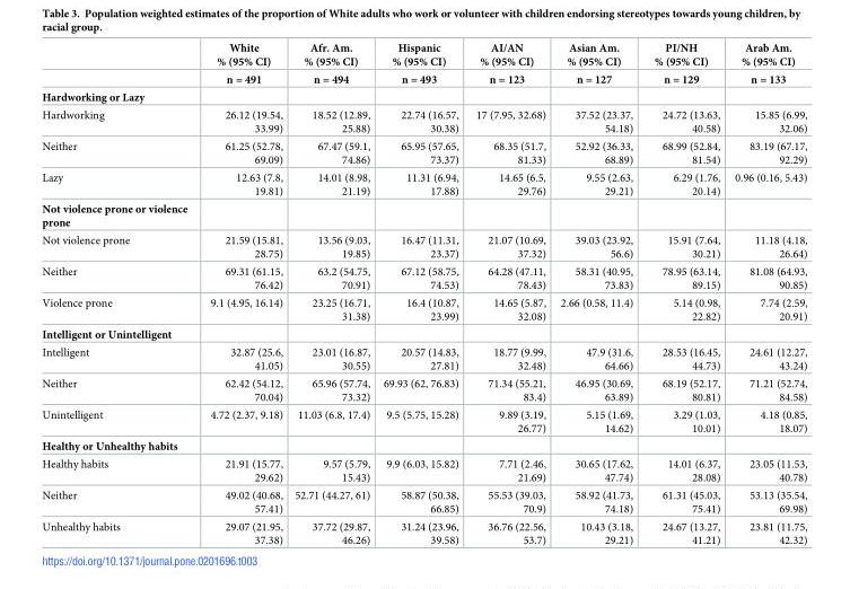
<table><thead><tr><td rowspan="2"></td><td rowspan="2">White % (95% CI) n = 491</td><td rowspan="2">Afr. Am. % (95% CI) n = 494</td><td rowspan="2">Hispanic % (95% CI) n = 493</td><td rowspan="2">AI/AN % (95% CI) n = 123</td><td rowspan="2">Asian Am. % (95% CI) n = 127</td><td rowspan="2">PI/NH % (95% CI) n = 129</td><td rowspan="2">Arab Am. % (95% CI) n = 133</td></tr><tr></tr></thead><tbody><tr><td colspan="8">Hardworking or Lazy</td></tr><tr><td>Hardworking</td><td>26.12 (19.54, 33.99)</td><td>18.52 (12.89, 25.88)</td><td>22.74 (16.57, 30.38)</td><td>17 (7.95, 32.68)</td><td>37.52 (23.37, 54.18)</td><td>24.72 (13.63, 40.58)</td><td>15.85 (6.99, 32.06)</td></tr><tr><td>Neither</td><td>61.25 (52.78, 69.09)</td><td>67.47 (59.1, 74.86)</td><td>65.95 (57.65, 73.37)</td><td>68.35 (51.7, 81.33)</td><td>52.92 (36.33, 68.89)</td><td>68.99 (52.84, 81.54)</td><td>83.19 (67.17, 92.29)</td></tr><tr><td>Lazy</td><td>12.63 (7.8, 19.81)</td><td>14.01 (8.98, 21.19)</td><td>11.31 (6.94, 17.88)</td><td>14.65 (6.5, 29.76)</td><td>9.55 (2.63, 29.21)</td><td>6.29 (1.76, 20.14)</td><td>0.96 (0.16, 5.43)</td></tr><tr><td colspan="8">Not violence prone or violence prone</td></tr><tr><td>Not violence prone</td><td>21.59 (15.81, 28.75)</td><td>13.56 (9.03, 19.85)</td><td>16.47 (11.31, 23.37)</td><td>21.07 (10.69, 37.32)</td><td>39.03 (23.92, 56.6)</td><td>15.91 (7.64, 30.21)</td><td>11.18 (4.18, 26.64)</td></tr><tr><td>Neither</td><td>69.31 (61.15, 76.42)</td><td>63.2 (54.75, 70.91)</td><td>67.12 (58.75, 74.53)</td><td>64.28 (47.11, 78.43)</td><td>58.31 (40.95, 73.83)</td><td>78.95 (63.14, 89.15)</td><td>81.08 (64.93, 90.85)</td></tr><tr><td>Violence prone</td><td>9.1 (4.95, 16.14)</td><td>23.25 (16.71, 31.38)</td><td>16.4 (10.87, 23.99)</td><td>14.65 (5.87, 32.08)</td><td>2.66 (0.58, 11.4)</td><td>5.14 (0.98, 22.82)</td><td>7.74 (2.59, 20.91)</td></tr><tr><td colspan="8">Intelligent or Unintelligent</td></tr><tr><td>Intelligent</td><td>32.87 (25.6, 41.05)</td><td>23.01 (16.87, 30.55)</td><td>20.57 (14.83, 27.81)</td><td>18.77 (9.99, 32.48)</td><td>47.9 (31.6, 64.66)</td><td>28.53 (16.45, 44.73)</td><td>24.61 (12.27, 43.24)</td></tr><tr><td>Neither</td><td>62.42 (54.12, 70.04)</td><td>65.96 (57.74, 73.32)</td><td>69.93 (62, 76.83)</td><td>71.34 (55.21, 83.4)</td><td>46.95 (30.69, 63.89)</td><td>68.19 (52.17, 80.81)</td><td>71.21 (52.74, 84.58)</td></tr><tr><td>Unintelligent</td><td>4.72 (2.37, 9.18)</td><td>11.03 (6.8, 17.4)</td><td>9.5 (5.75, 15.28)</td><td>9.89 (3.19, 26.77)</td><td>5.15 (1.69, 14.62)</td><td>3.29 (1.03, 10.01)</td><td>4.18 (0.85, 18.07)</td></tr><tr><td colspan="8">Healthy or Unhealthy habits</td></tr><tr><td>Healthy habits</td><td>21.91 (15.77, 29.62)</td><td>9.57 (5.79, 15.43)</td><td>9.9 (6.03, 15.82)</td><td>7.71 (2.46, 21.69)</td><td>30.65 (17.62, 47.74)</td><td>14.01 (6.37, 28.08)</td><td>23.05 (11.53, 40.78)</td></tr><tr><td>Neither</td><td>49.02 (40.68, 57.41)</td><td>52.71 (44.27, 61)</td><td>58.87 (50.38, 66.85)</td><td>55.53 (39.03, 70.9)</td><td>58.92 (41.73, 74.18)</td><td>61.31 (45.03, 75.41)</td><td>53.13 (35.54, 69.98)</td></tr><tr><td>Unhealthy habits</td><td>29.07 (21.95, 37.38)</td><td>37.72 (29.87, 46.26)</td><td>31.24 (23.96, 39.58)</td><td>36.76 (22.56, 53.7)</td><td>10.43 (3.18, 29.21)</td><td>24.67 (13.27, 41.21)</td><td>23.81 (11.75, 42.32)</td></tr></tbody></table>